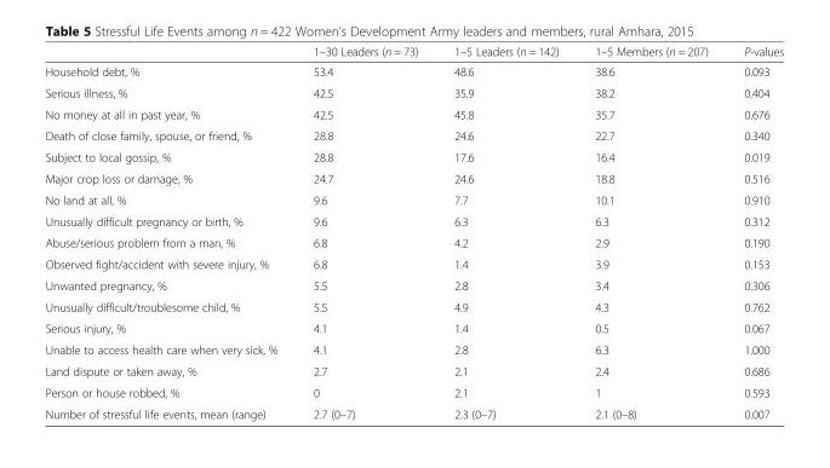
<table><thead><tr><td></td><td>1–30 Leaders (n = 73)</td><td>1–5 Leaders (n = 142)</td><td>1–5 Members (n = 207)</td><td>P-values</td></tr></thead><tbody><tr><td>Household debt, %</td><td>53.4</td><td>48.6</td><td>38.6</td><td>0.093</td></tr><tr><td>Serious illness, %</td><td>42.5</td><td>35.9</td><td>38.2</td><td>0.404</td></tr><tr><td>No money at all in past year, %</td><td>42.5</td><td>45.8</td><td>35.7</td><td>0.676</td></tr><tr><td>Death of close family, spouse, or friend, %</td><td>28.8</td><td>24.6</td><td>22.7</td><td>0.340</td></tr><tr><td>Subject to local gossip, %</td><td>28.8</td><td>17.6</td><td>16.4</td><td>0.019</td></tr><tr><td>Major crop loss or damage, %</td><td>24.7</td><td>24.6</td><td>18.8</td><td>0.516</td></tr><tr><td>No land at all, %</td><td>9.6</td><td>7.7</td><td>10.1</td><td>0.910</td></tr><tr><td>Unusually difficult pregnancy or birth, %</td><td>9.6</td><td>6.3</td><td>6.3</td><td>0.312</td></tr><tr><td>Abuse/serious problem from a man, %</td><td>6.8</td><td>4.2</td><td>2.9</td><td>0.190</td></tr><tr><td>Observed fight/accident with severe injury, %</td><td>6.8</td><td>1.4</td><td>3.9</td><td>0.153</td></tr><tr><td>Unwanted pregnancy, %</td><td>5.5</td><td>2.8</td><td>3.4</td><td>0.306</td></tr><tr><td>Unusually difficult/troublesome child, %</td><td>5.5</td><td>4.9</td><td>4.3</td><td>0.762</td></tr><tr><td>Serious injury, %</td><td>4.1</td><td>1.4</td><td>0.5</td><td>0.067</td></tr><tr><td>Unable to access health care when very sick, %</td><td>4.1</td><td>2.8</td><td>6.3</td><td>1.000</td></tr><tr><td>Land dispute or taken away, %</td><td>2.7</td><td>2.1</td><td>2.4</td><td>0.686</td></tr><tr><td>Person or house robbed, %</td><td>0</td><td>2.1</td><td>1</td><td>0.593</td></tr><tr><td>Number of stressful life events, mean (range)</td><td>2.7 (0–7)</td><td>2.3 (0–7)</td><td>2.1 (0–8)</td><td>0.007</td></tr></tbody></table>